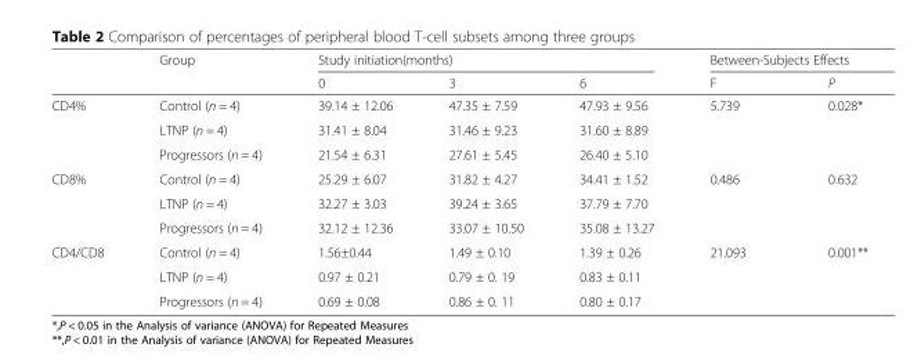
<table><thead><tr><td rowspan="2"></td><td rowspan="2">Group</td><td colspan="3">Study initiation(months)</td><td colspan="2">Between-Subjects Effects</td></tr><tr><td>0</td><td>3</td><td>6</td><td>F</td><td>P</td></tr></thead><tbody><tr><td rowspan="3">CD4%</td><td>Control (n = 4)</td><td>39.14 ± 12.06</td><td>47.35 ± 7.59</td><td>47.93 ± 9.56</td><td rowspan="3">5.739</td><td rowspan="3">0.028*</td></tr><tr><td>LTNP (n = 4)</td><td>31.41 ± 8.04</td><td>31.46 ± 9.23</td><td>31.60 ± 8.89</td></tr><tr><td>Progressors (n = 4)</td><td>21.54 ± 6.31</td><td>27.61 ± 5.45</td><td>26.40 ± 5.10</td></tr><tr><td rowspan="3">CD8%</td><td>Control (n = 4)</td><td>25.29 ± 6.07</td><td>31.82 ± 4.27</td><td>34.41 ± 1.52</td><td rowspan="3">0.486</td><td rowspan="3">0.632</td></tr><tr><td>LTNP (n = 4)</td><td>32.27 ± 3.03</td><td>39.24 ± 3.65</td><td>37.79 ± 7.70</td></tr><tr><td>Progressors (n = 4)</td><td>32.12 ± 12.36</td><td>33.07 ± 10.50</td><td>35.08 ± 13.27</td></tr><tr><td rowspan="3">CD4/CD8</td><td>Control (n = 4)</td><td>1.56±0.44</td><td>1.49 ± 0.10</td><td>1.39 ± 0.26</td><td rowspan="3">21.093</td><td rowspan="3">0.001**</td></tr><tr><td>LTNP (n = 4)</td><td>0.97 ± 0.21</td><td>0.79 ± 0. 19</td><td>0.83 ± 0.11</td></tr><tr><td>Progressors (n = 4)</td><td>0.69 ± 0.08</td><td>0.86 ± 0. 11</td><td>0.80 ± 0.17</td></tr></tbody></table>